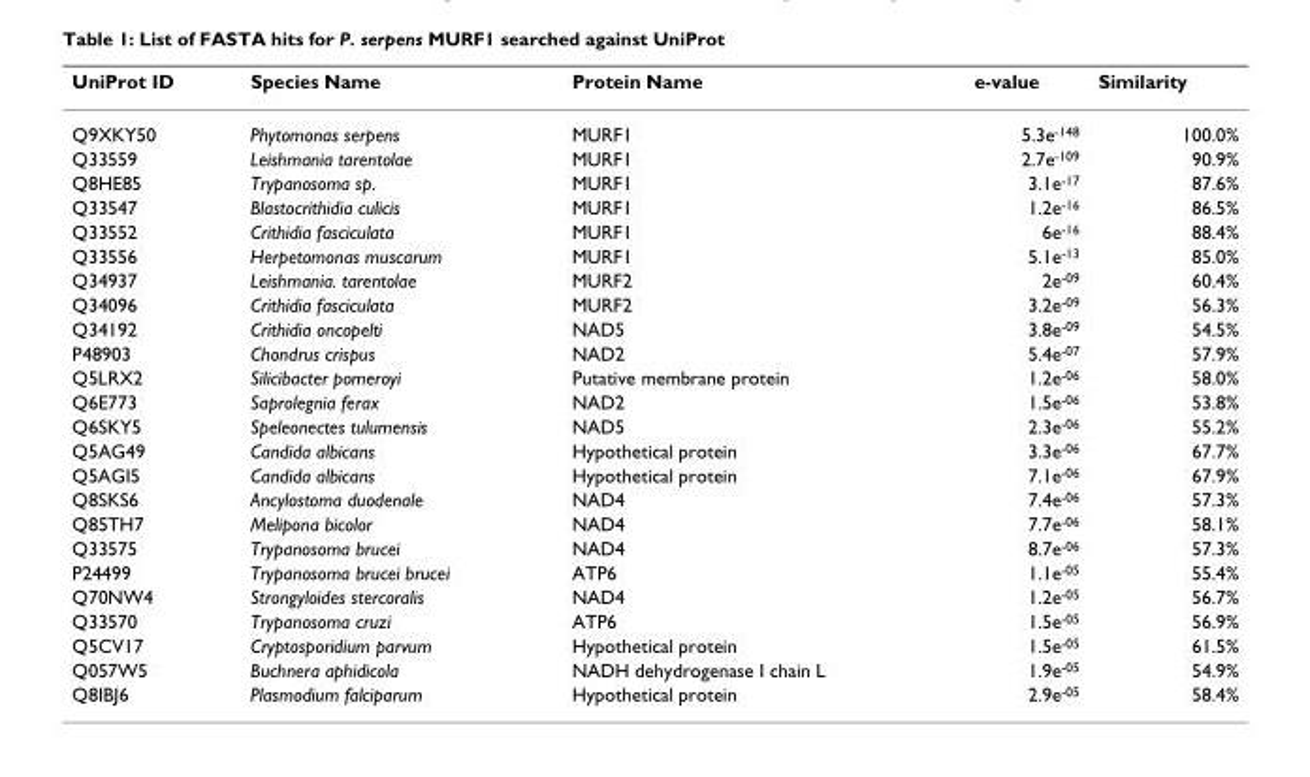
<table><thead><tr><td>UniProt ID</td><td>Species Name</td><td>Protein Name</td><td>e-value</td><td>Similarity</td></tr></thead><tbody><tr><td>Q9XKY50</td><td>Phytomonas serpens</td><td>MURF1</td><td>5.3e<sup>-148</sup></td><td>100.0%</td></tr><tr><td>Q33559</td><td>Leishmania tarentolae</td><td>MURF1</td><td>2.7e<sup>-109</sup></td><td>90.9%</td></tr><tr><td>Q8HE85</td><td>Trypanosoma sp.</td><td>MURF1</td><td>3.1e<sup>-17</sup></td><td>87.6%</td></tr><tr><td>Q33547</td><td>Blastocrithidia culicis</td><td>MURF1</td><td>1.2e<sup>-16</sup></td><td>86.5%</td></tr><tr><td>Q33552</td><td>Crithidia fasciculata</td><td>MURF1</td><td>6e<sup>-16</sup></td><td>88.4%</td></tr><tr><td>Q33556</td><td>Herpetomonas muscarum</td><td>MURF1</td><td>5.1e<sup>-13</sup></td><td>85.0%</td></tr><tr><td>Q34937</td><td>Leishmania. tarentolae</td><td>MURF2</td><td>2e<sup>-09</sup></td><td>60.4%</td></tr><tr><td>Q34096</td><td>Crithidia fasciculata</td><td>MURF2</td><td>3.2e<sup>-09</sup></td><td>56.3%</td></tr><tr><td>Q34192</td><td>Crithidia oncopelti</td><td>NAD5</td><td>3.8e<sup>-09</sup></td><td>54.5%</td></tr><tr><td>P48903</td><td>Chondrus crispus</td><td>NAD2</td><td>5.4e<sup>-07</sup></td><td>57.9%</td></tr><tr><td>Q5LRX2</td><td>Silicibacter pomeroyi</td><td>Putative membrane protein</td><td>1.2e<sup>-06</sup></td><td>58.0%</td></tr><tr><td>Q6E773</td><td>Saprolegnia ferax</td><td>NAD2</td><td>1.5e<sup>-06</sup></td><td>53.8%</td></tr><tr><td>Q6SKY5</td><td>Speleonectes tulumensis</td><td>NAD5</td><td>2.3e<sup>-06</sup></td><td>55.2%</td></tr><tr><td>Q5AG49</td><td>Candida albicans</td><td>Hypothetical protein</td><td>3.3e<sup>-06</sup></td><td>67.7%</td></tr><tr><td>Q5AGI5</td><td>Candida albicans</td><td>Hypothetical protein</td><td>7.1e<sup>-06</sup></td><td>67.9%</td></tr><tr><td>Q8SKS6</td><td>Ancylostoma duodenale</td><td>NAD4</td><td>7.4e<sup>-06</sup></td><td>57.3%</td></tr><tr><td>Q85TH7</td><td>Melipona bicolor</td><td>NAD4</td><td>7.7e<sup>-06</sup></td><td>58.1%</td></tr><tr><td>Q33575</td><td>Trypanosoma brucei</td><td>NAD4</td><td>8.7e<sup>-06</sup></td><td>57.3%</td></tr><tr><td>P24499</td><td>Trypanosoma brucei brucei</td><td>ATP6</td><td>1.1e<sup>-05</sup></td><td>55.4%</td></tr><tr><td>Q70NW4</td><td>Strongyloides stercoralis</td><td>NAD4</td><td>1.2e<sup>-05</sup></td><td>56.7%</td></tr><tr><td>Q33570</td><td>Trypanosoma cruzi</td><td>ATP6</td><td>1.5e<sup>-05</sup></td><td>56.9%</td></tr><tr><td>Q5CV17</td><td>Cryptosporidium parvum</td><td>Hypothetical protein</td><td>1.5e<sup>-05</sup></td><td>61.5%</td></tr><tr><td>Q057W5</td><td>Buchnera aphidicola</td><td>NADH dehydrogenase I chain L</td><td>1.9e<sup>-05</sup></td><td>54.9%</td></tr><tr><td>Q8IBJ6</td><td>Plasmodium falciparum</td><td>Hypothetical protein</td><td>2.9e<sup>-05</sup></td><td>58.4%</td></tr></tbody></table>